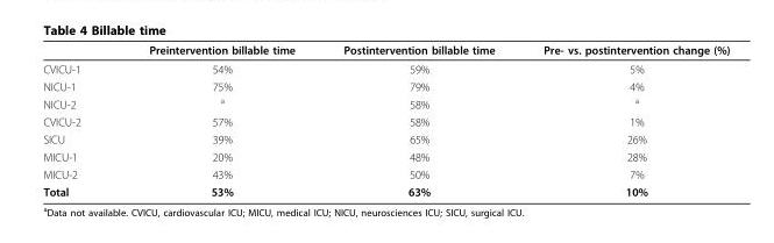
<table><thead><tr><td></td><td>Preintervention billable time</td><td>Postintervention billable time</td><td>Pre- vs. postintervention change (%)</td></tr></thead><tbody><tr><td>CVICU-1</td><td>54%</td><td>59%</td><td>5%</td></tr><tr><td>NICU-1</td><td>75%</td><td>79%</td><td>4%</td></tr><tr><td>NICU-2</td><td><sup>a</sup></td><td>58%</td><td><sup>a</sup></td></tr><tr><td>CVICU-2</td><td>57%</td><td>58%</td><td>1%</td></tr><tr><td>SICU</td><td>39%</td><td>65%</td><td>26%</td></tr><tr><td>MICU-1</td><td>20%</td><td>48%</td><td>28%</td></tr><tr><td>MICU-2</td><td>43%</td><td>50%</td><td>7%</td></tr><tr><td>Total</td><td>53%</td><td>63%</td><td>10%</td></tr></tbody></table>